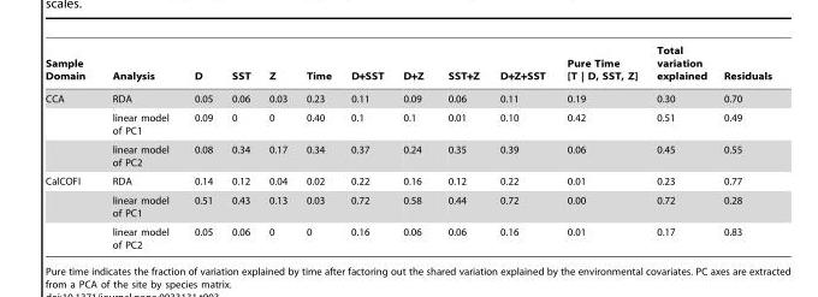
<table><thead><tr><td>Sample Domain</td><td>Analysis</td><td>D</td><td>SST</td><td>Z</td><td>Time</td><td>D+SST</td><td>D+Z</td><td>SST+Z</td><td>D+Z+SST</td><td>Pure Time [T | D, SST, Z]</td><td>Total variation explained</td><td>Residuals</td></tr></thead><tbody><tr><td rowspan="3">CCA</td><td>RDA</td><td>0.05</td><td>0.06</td><td>0.03</td><td>0.23</td><td>0.11</td><td>0.09</td><td>0.06</td><td>0.11</td><td>0.19</td><td>0.30</td><td>0.70</td></tr><tr><td>linear model of PC1</td><td>0.09</td><td>0</td><td>0</td><td>0.40</td><td>0.1</td><td>0.1</td><td>0.01</td><td>0.10</td><td>0.42</td><td>0.51</td><td>0.49</td></tr><tr><td>linear model of PC2</td><td>0.08</td><td>0.34</td><td>0.17</td><td>0.34</td><td>0.37</td><td>0.24</td><td>0.35</td><td>0.39</td><td>0.06</td><td>0.45</td><td>0.55</td></tr><tr><td rowspan="3">CalCOFI</td><td>RDA</td><td>0.14</td><td>0.12</td><td>0.04</td><td>0.02</td><td>0.22</td><td>0.16</td><td>0.12</td><td>0.22</td><td>0.01</td><td>0.23</td><td>0.77</td></tr><tr><td>linear model of PC1</td><td>0.51</td><td>0.43</td><td>0.13</td><td>0.03</td><td>0.72</td><td>0.58</td><td>0.44</td><td>0.72</td><td>0.00</td><td>0.72</td><td>0.28</td></tr><tr><td>linear model of PC2</td><td>0.05</td><td>0.06</td><td>0</td><td>0</td><td>0.16</td><td>0.06</td><td>0.06</td><td>0.16</td><td>0.01</td><td>0.17</td><td>0.83</td></tr></tbody></table>